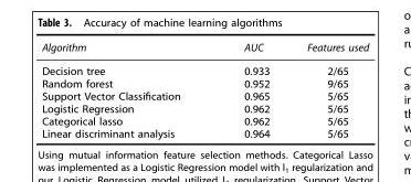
<table><thead><tr><td>Algorithm</td><td>AUC</td><td>Features used</td></tr></thead><tbody><tr><td>Decision tree</td><td>0.933</td><td>2/65</td></tr><tr><td>Random forest</td><td>0.952</td><td>9/65</td></tr><tr><td>Support Vector Classification</td><td>0.965</td><td>5/65</td></tr><tr><td>Logistic Regression</td><td>0.962</td><td>5/65</td></tr><tr><td>Categorical lasso</td><td>0.962</td><td>5/65</td></tr><tr><td>Linear discriminant analysis</td><td>0.964</td><td>5/65</td></tr></tbody></table>